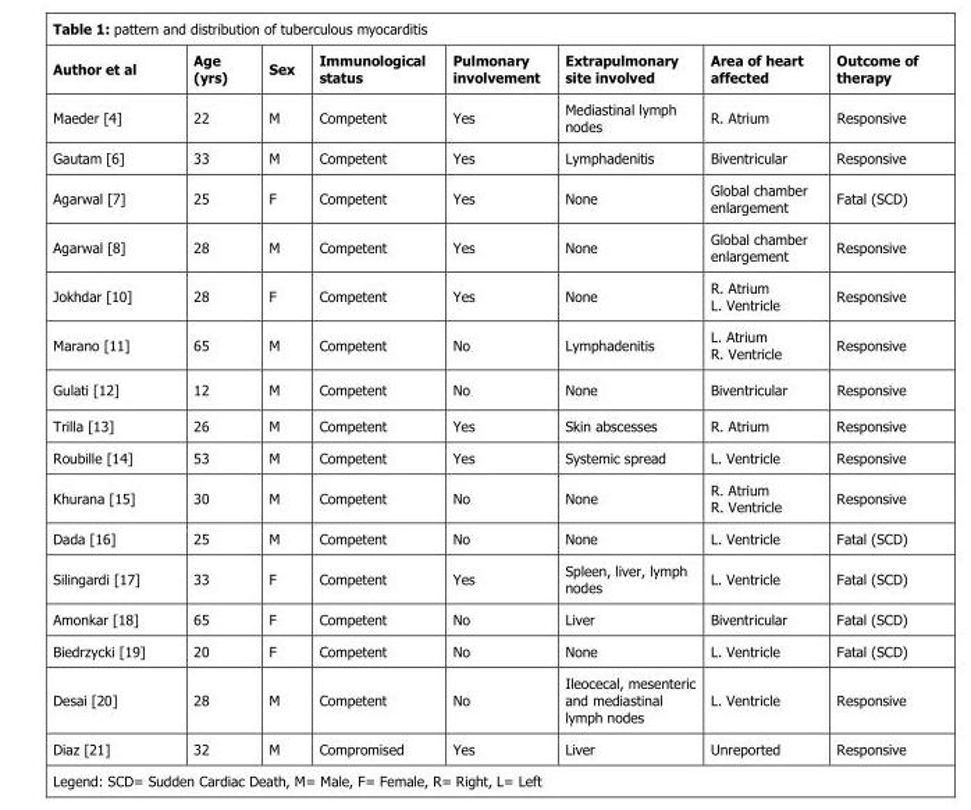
<table><thead><tr><td>Author et al</td><td>Age (yrs)</td><td>Sex</td><td>Immunological status</td><td>Pulmonary involvement</td><td>Extrapulmonary site involved</td><td>Area of heart affected</td><td>Outcome of therapy</td></tr></thead><tbody><tr><td>Maeder [4]</td><td>22</td><td>M</td><td>Competent</td><td>Yes</td><td>Mediastinal lymph nodes</td><td>R. Atrium</td><td>Responsive</td></tr><tr><td>Gautam [6]</td><td>33</td><td>M</td><td>Competent</td><td>Yes</td><td>Lymphadenitis</td><td>Biventricular</td><td>Responsive</td></tr><tr><td>Agarwal [7]</td><td>25</td><td>F</td><td>Competent</td><td>Yes</td><td>None</td><td>Global chamber enlargement</td><td>Fatal (SCD)</td></tr><tr><td>Agarwal [8]</td><td>28</td><td>M</td><td>Competent</td><td>Yes</td><td>None</td><td>Global chamber enlargement</td><td>Responsive</td></tr><tr><td>Jokhdar [10]</td><td>28</td><td>F</td><td>Competent</td><td>Yes</td><td>None</td><td>R. Atrium L. Ventricle</td><td>Responsive</td></tr><tr><td>Marano [11]</td><td>65</td><td>M</td><td>Competent</td><td>No</td><td>Lymphadenitis</td><td>L. Atrium R. Ventricle</td><td>Responsive</td></tr><tr><td>Gulati [12]</td><td>12</td><td>M</td><td>Competent</td><td>No</td><td>None</td><td>Biventricular</td><td>Responsive</td></tr><tr><td>Trilla [13]</td><td>26</td><td>M</td><td>Competent</td><td>Yes</td><td>Skin abscesses</td><td>R. Atrium</td><td>Responsive</td></tr><tr><td>Roubille [14]</td><td>53</td><td>M</td><td>Competent</td><td>Yes</td><td>Systemic spread</td><td>L. Ventricle</td><td>Responsive</td></tr><tr><td>Khurana [15]</td><td>30</td><td>M</td><td>Competent</td><td>No</td><td>None</td><td>R. Atrium R. Ventricle</td><td>Responsive</td></tr><tr><td>Dada [16]</td><td>25</td><td>M</td><td>Competent</td><td>No</td><td>None</td><td>L. Ventricle</td><td>Fatal (SCD)</td></tr><tr><td>Silingardi [17]</td><td>33</td><td>F</td><td>Competent</td><td>Yes</td><td>Spleen, liver, lymph nodes</td><td>L. Ventricle</td><td>Fatal (SCD)</td></tr><tr><td>Amonkar [18]</td><td>65</td><td>F</td><td>Competent</td><td>No</td><td>Liver</td><td>Biventricular</td><td>Fatal (SCD)</td></tr><tr><td>Biedrzycki [19]</td><td>20</td><td>F</td><td>Competent</td><td>No</td><td>None</td><td>L. Ventricle</td><td>Fatal (SCD)</td></tr><tr><td>Desai [20]</td><td>28</td><td>M</td><td>Competent</td><td>No</td><td>Ileocecal, mesenteric and mediastinal lymph nodes</td><td>L. Ventricle</td><td>Responsive</td></tr><tr><td>Diaz [21]</td><td>32</td><td>M</td><td>Compromised</td><td>Yes</td><td>Liver</td><td>Unreported</td><td>Responsive</td></tr></tbody></table>